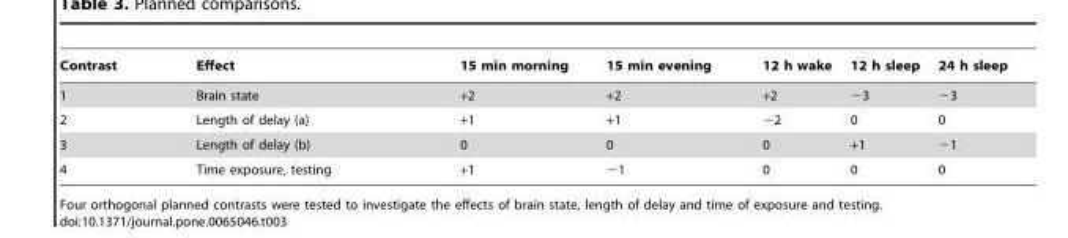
<table><thead><tr><td>Contrast</td><td>Effect</td><td>15 min morning</td><td>15 min evening</td><td>12 h wake</td><td>12 h sleep</td><td>24 h sleep</td></tr></thead><tbody><tr><td>1</td><td>Brain state</td><td>+2</td><td>+2</td><td>+2</td><td>−3</td><td>−3</td></tr><tr><td>2</td><td>Length of delay (a)</td><td>+1</td><td>+1</td><td>−2</td><td>0</td><td>0</td></tr><tr><td>3</td><td>Length of delay (b)</td><td>0</td><td>0</td><td>0</td><td>+1</td><td>−1</td></tr><tr><td>4</td><td>Time exposure, testing</td><td>+1</td><td>−1</td><td>0</td><td>0</td><td>0</td></tr></tbody></table>